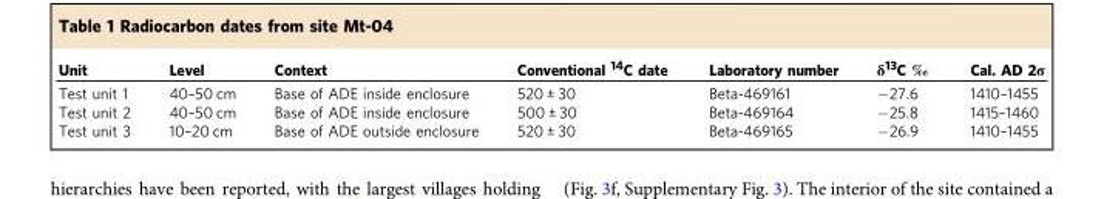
<table><thead><tr><td>Unit</td><td>Level</td><td>Context</td><td>Conventional <sup>14</sup>C date</td><td>Laboratory number</td><td>δ<sup>13</sup>C ‰</td><td>Cal. AD 2σ</td></tr></thead><tbody><tr><td>Test unit 1</td><td>40–50 cm</td><td>Base of ADE inside enclosure</td><td>520 ± 30</td><td>Beta-469161</td><td>−27.6</td><td>1410–1455</td></tr><tr><td>Test unit 2</td><td>40–50 cm</td><td>Base of ADE inside enclosure</td><td>500 ± 30</td><td>Beta-469164</td><td>−25.8</td><td>1415–1460</td></tr><tr><td>Test unit 3</td><td>10–20 cm</td><td>Base of ADE outside enclosure</td><td>520 ± 30</td><td>Beta-469165</td><td>−26.9</td><td>1410–1455</td></tr></tbody></table>